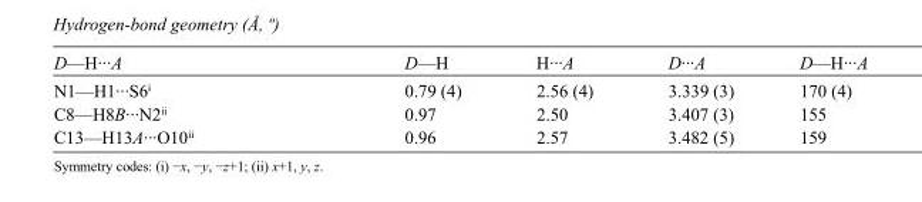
<table><tbody><tr><td>D—H···A</td><td>D—H</td><td>H···A</td><td>D···A</td><td>D—H···A</td></tr><tr><td>N1—H1···S6<sup>i</sup></td><td>0.79 (4)</td><td>2.56 (4)</td><td>3.339 (3)</td><td>170 (4)</td></tr><tr><td>C8—H8B···N2<sup>ii</sup></td><td>0.97</td><td>2.50</td><td>3.407 (3)</td><td>155</td></tr><tr><td>C13—H13A···O10<sup>ii</sup></td><td>0.96</td><td>2.57</td><td>3.482 (5)</td><td>159</td></tr></tbody></table>